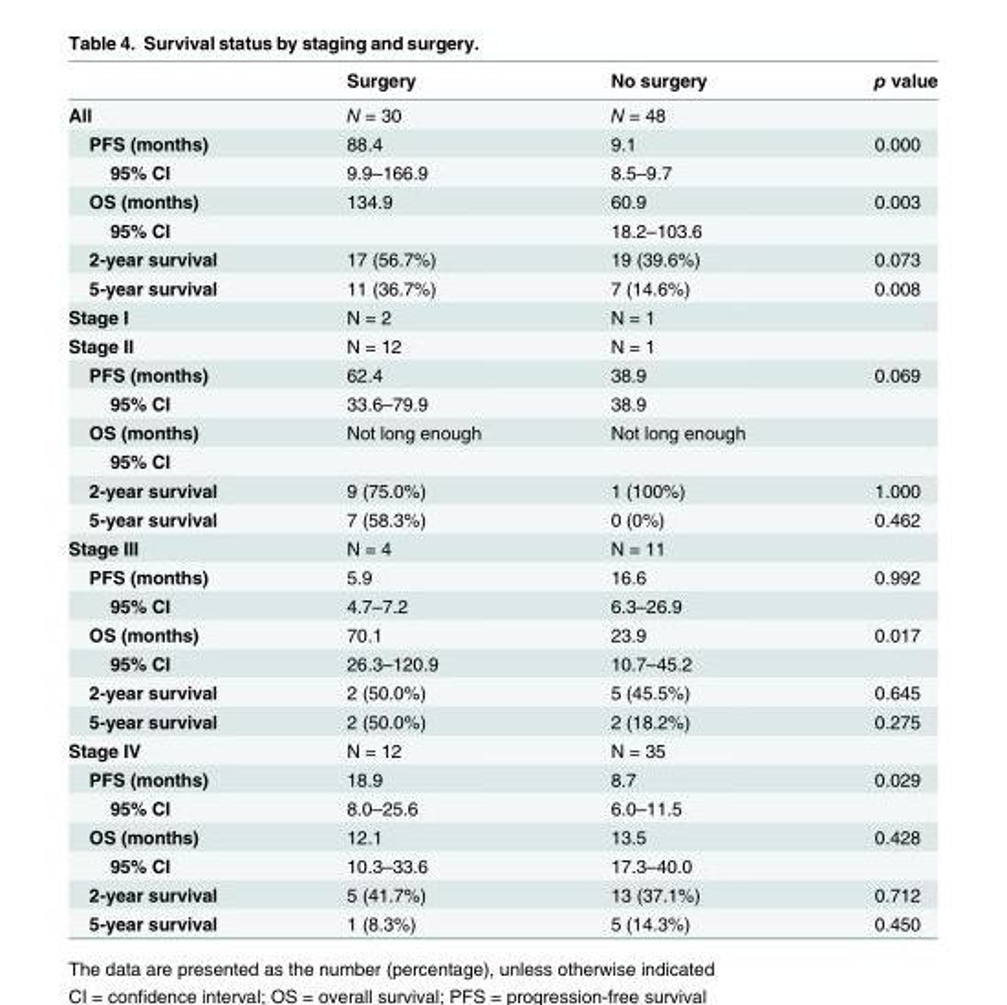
<table><thead><tr><td></td><td>Surgery</td><td>No surgery</td><td>p value</td></tr></thead><tbody><tr><td>All</td><td>N = 30</td><td>N = 48</td><td></td></tr><tr><td>PFS (months)</td><td>88.4</td><td>9.1</td><td>0.000</td></tr><tr><td>95% CI</td><td>9.9–166.9</td><td>8.5–9.7</td><td></td></tr><tr><td>OS (months)</td><td>134.9</td><td>60.9</td><td>0.003</td></tr><tr><td>95% CI</td><td></td><td>18.2–103.6</td><td></td></tr><tr><td>2-year survival</td><td>17 (56.7%)</td><td>19 (39.6%)</td><td>0.073</td></tr><tr><td>5-year survival</td><td>11 (36.7%)</td><td>7 (14.6%)</td><td>0.008</td></tr><tr><td>Stage I</td><td>N = 2</td><td>N = 1</td><td></td></tr><tr><td>Stage II</td><td>N = 12</td><td>N = 1</td><td></td></tr><tr><td>PFS (months)</td><td>62.4</td><td>38.9</td><td>0.069</td></tr><tr><td>95% CI</td><td>33.6–79.9</td><td>38.9</td><td></td></tr><tr><td>OS (months)</td><td>Not long enough</td><td>Not long enough</td><td></td></tr><tr><td colspan="4">95% CI</td></tr><tr><td>2-year survival</td><td>9 (75.0%)</td><td>1 (100%)</td><td>1.000</td></tr><tr><td>5-year survival</td><td>7 (58.3%)</td><td>0 (0%)</td><td>0.462</td></tr><tr><td>Stage III</td><td>N = 4</td><td>N = 11</td><td></td></tr><tr><td>PFS (months)</td><td>5.9</td><td>16.6</td><td>0.992</td></tr><tr><td>95% CI</td><td>4.7–7.2</td><td>6.3–26.9</td><td></td></tr><tr><td>OS (months)</td><td>70.1</td><td>23.9</td><td>0.017</td></tr><tr><td>95% CI</td><td>26.3–120.9</td><td>10.7–45.2</td><td></td></tr><tr><td>2-year survival</td><td>2 (50.0%)</td><td>5 (45.5%)</td><td>0.645</td></tr><tr><td>5-year survival</td><td>2 (50.0%)</td><td>2 (18.2%)</td><td>0.275</td></tr><tr><td>Stage IV</td><td>N = 12</td><td>N = 35</td><td></td></tr><tr><td>PFS (months)</td><td>18.9</td><td>8.7</td><td>0.029</td></tr><tr><td>95% CI</td><td>8.0–25.6</td><td>6.0–11.5</td><td></td></tr><tr><td>OS (months)</td><td>12.1</td><td>13.5</td><td>0.428</td></tr><tr><td>95% CI</td><td>10.3–33.6</td><td>17.3–40.0</td><td></td></tr><tr><td>2-year survival</td><td>5 (41.7%)</td><td>13 (37.1%)</td><td>0.712</td></tr><tr><td>5-year survival</td><td>1 (8.3%)</td><td>5 (14.3%)</td><td>0.450</td></tr></tbody></table>